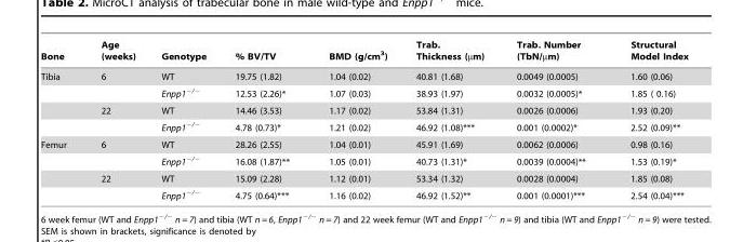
<table><thead><tr><td>Bone</td><td>Age (weeks)</td><td>Genotype</td><td>% BV/TV</td><td>BMD (g/cm<sup>3</sup>)</td><td>Trab. Thickness (µm)</td><td>Trab. Number (TbN/µm)</td><td>Structural Model Index</td></tr></thead><tbody><tr><td rowspan="4">Tibia</td><td>6</td><td>WT</td><td>19.75 (1.82)</td><td>1.04 (0.02)</td><td>40.81 (1.68)</td><td>0.0049 (0.0005)</td><td>1.60 (0.06)</td></tr><tr><td></td><td>Enpp1<sup>−/−</sup></td><td>12.53 (2.26)*</td><td>1.07 (0.03)</td><td>38.93 (1.97)</td><td>0.0032 (0.0005)*</td><td>1.85 ( 0.16)</td></tr><tr><td>22</td><td>WT</td><td>14.46 (3.53)</td><td>1.17 (0.02)</td><td>53.84 (1.31)</td><td>0.0026 (0.0006)</td><td>1.93 (0.20)</td></tr><tr><td></td><td>Enpp1<sup>−/−</sup></td><td>4.78 (0.73)*</td><td>1.21 (0.02)</td><td>46.92 (1.08)***</td><td>0.001 (0.0002)*</td><td>2.52 (0.09)**</td></tr><tr><td rowspan="4">Femur</td><td>6</td><td>WT</td><td>28.26 (2.55)</td><td>1.04 (0.01)</td><td>45.91 (1.69)</td><td>0.0062 (0.0006)</td><td>0.98 (0.16)</td></tr><tr><td></td><td>Enpp1<sup>−/−</sup></td><td>16.08 (1.87)**</td><td>1.05 (0.01)</td><td>40.73 (1.31)*</td><td>0.0039 (0.0004)**</td><td>1.53 (0.19)*</td></tr><tr><td>22</td><td>WT</td><td>15.09 (2.28)</td><td>1.12 (0.01)</td><td>53.34 (1.32)</td><td>0.0028 (0.0004)</td><td>1.85 (0.08)</td></tr><tr><td></td><td>Enpp1<sup>−/−</sup></td><td>4.75 (0.64)***</td><td>1.16 (0.02)</td><td>46.92 (1.52)**</td><td>0.001 (0.0001)***</td><td>2.54 (0.04)***</td></tr></tbody></table>